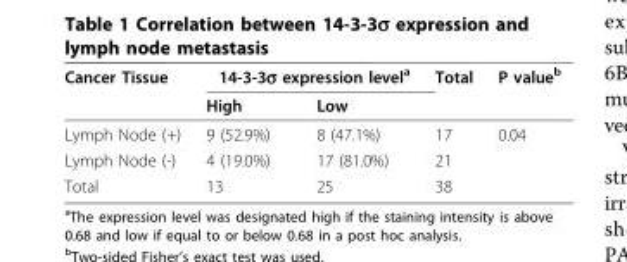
<table><thead><tr><td rowspan="2">Cancer Tissue</td><td colspan="2">14-3-3σ expression level<sup>a</sup></td><td rowspan="2">Total</td><td rowspan="2">P value<sup>b</sup></td></tr><tr><td>High</td><td>Low</td></tr></thead><tbody><tr><td>Lymph Node (+)</td><td>9 (52.9%)</td><td>8 (47.1%)</td><td>17</td><td>0.04</td></tr><tr><td>Lymph Node (-)</td><td>4 (19.0%)</td><td>17 (81.0%)</td><td>21</td><td></td></tr><tr><td>Total</td><td>13</td><td>25</td><td>38</td><td></td></tr></tbody></table>